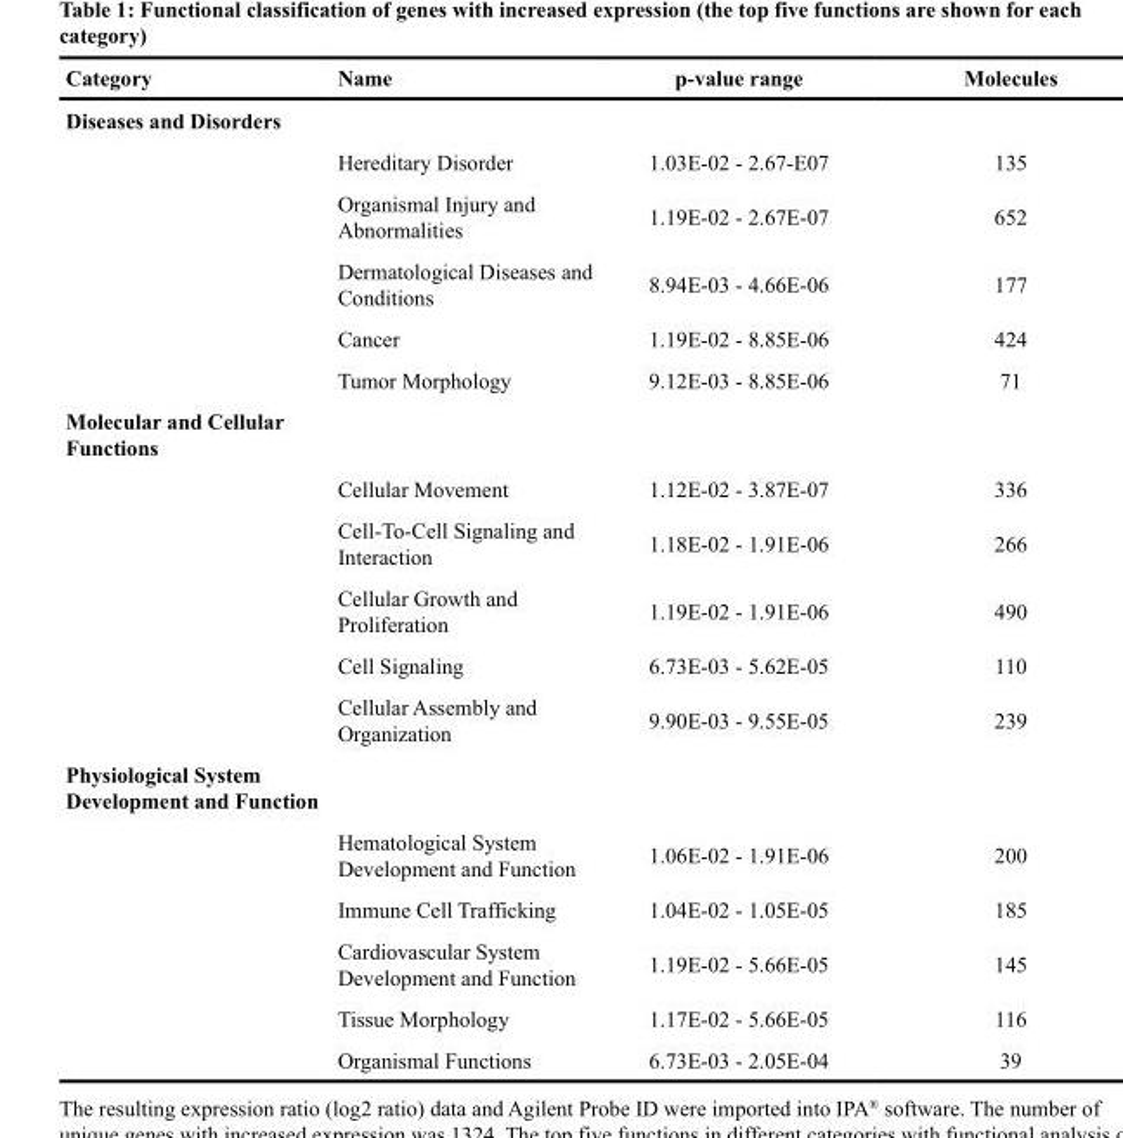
<table><thead><tr><td>Category</td><td>Name</td><td>p-value range</td><td>Molecules</td></tr></thead><tbody><tr><td colspan="4">Diseases and Disorders</td></tr><tr><td></td><td>Hereditary Disorder</td><td>1.03E-02 - 2.67-E07</td><td>135</td></tr><tr><td></td><td>Organismal Injury and Abnormalities</td><td>1.19E-02 - 2.67E-07</td><td>652</td></tr><tr><td></td><td>Dermatological Diseases and Conditions</td><td>8.94E-03 - 4.66E-06</td><td>177</td></tr><tr><td></td><td>Cancer</td><td>1.19E-02 - 8.85E-06</td><td>424</td></tr><tr><td></td><td>Tumor Morphology</td><td>9.12E-03 - 8.85E-06</td><td>71</td></tr><tr><td colspan="4">Molecular and Cellular Functions</td></tr><tr><td></td><td>Cellular Movement</td><td>1.12E-02 - 3.87E-07</td><td>336</td></tr><tr><td></td><td>Cell-To-Cell Signaling and Interaction</td><td>1.18E-02 - 1.91E-06</td><td>266</td></tr><tr><td></td><td>Cellular Growth and Proliferation</td><td>1.19E-02 - 1.91E-06</td><td>490</td></tr><tr><td></td><td>Cell Signaling</td><td>6.73E-03 - 5.62E-05</td><td>110</td></tr><tr><td></td><td>Cellular Assembly and Organization</td><td>9.90E-03 - 9.55E-05</td><td>239</td></tr><tr><td colspan="4">Physiological System Development and Function</td></tr><tr><td></td><td>Hematological System Development and Function</td><td>1.06E-02 - 1.91E-06</td><td>200</td></tr><tr><td></td><td>Immune Cell Trafficking</td><td>1.04E-02 - 1.05E-05</td><td>185</td></tr><tr><td></td><td>Cardiovascular System Development and Function</td><td>1.19E-02 - 5.66E-05</td><td>145</td></tr><tr><td></td><td>Tissue Morphology</td><td>1.17E-02 - 5.66E-05</td><td>116</td></tr><tr><td></td><td>Organismal Functions</td><td>6.73E-03 - 2.05E-04</td><td>39</td></tr></tbody></table>